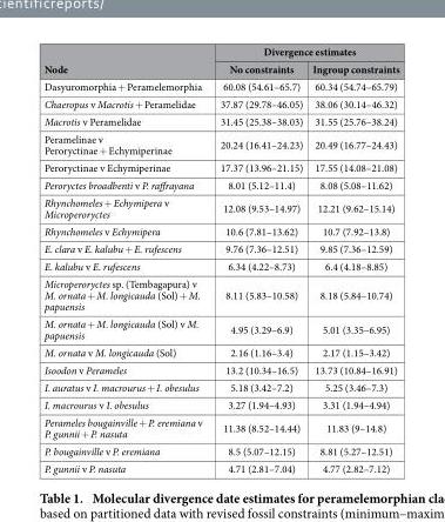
<table><thead><tr><td rowspan="2">Node</td><td colspan="2">Divergence estimates</td></tr><tr><td>No constraints</td><td>Ingroup constraints</td></tr></thead><tbody><tr><td>Dasyuromorphia + Peramelemorphia</td><td>60.08 (54.61–65.7)</td><td>60.34 (54.74–65.79)</td></tr><tr><td>Chaeropus v Macrotis + Peramelidae</td><td>37.87 (29.78–46.05)</td><td>38.06 (30.14–46.32)</td></tr><tr><td>Macrotis v Peramelidae</td><td>31.45 (25.38–38.03)</td><td>31.55 (25.76–38.24)</td></tr><tr><td>Peramelinae v Peroryctinae + Echymiperinae</td><td>20.24 (16.41–24.23)</td><td>20.49 (16.77–24.43)</td></tr><tr><td>Peroryctinae v Echymiperinae</td><td>17.37 (13.96–21.15)</td><td>17.55 (14.08–21.08)</td></tr><tr><td>Peroryctes broadbenti v P. raffrayana</td><td>8.01 (5.12–11.4)</td><td>8.08 (5.08–11.62)</td></tr><tr><td>Rhynchomeles + Echymipera v Microperoryctes</td><td>12.08 (9.53–14.97)</td><td>12.21 (9.62–15.14)</td></tr><tr><td>Rhynchomeles v Echymipera</td><td>10.6 (7.81–13.62)</td><td>10.7 (7.92–13.8)</td></tr><tr><td>E. clara v E. kalubu + E. rufescens</td><td>9.76 (7.36–12.51)</td><td>9.85 (7.36–12.59)</td></tr><tr><td>E. kalubu v E. rufescens</td><td>6.34 (4.22–8.73)</td><td>6.4 (4.18–8.85)</td></tr><tr><td>Microperoryctes sp. (Tembagapura) v M. ornata + M. longicauda (Sol) + M. papuensis</td><td>8.11 (5.83–10.58)</td><td>8.18 (5.84–10.74)</td></tr><tr><td>M. ornata + M. longicauda (Sol) v M. papuensis</td><td>4.95 (3.29–6.9)</td><td>5.01 (3.35–6.95)</td></tr><tr><td>M. ornata v M. longicauda (Sol)</td><td>2.16 (1.16–3.4)</td><td>2.17 (1.15–3.42)</td></tr><tr><td>Isoodon v Perameles</td><td>13.2 (10.34–16.5)</td><td>13.73 (10.84–16.91)</td></tr><tr><td>I. auratus v I. macrourus + I. obesulus</td><td>5.18 (3.42–7.2)</td><td>5.25 (3.46–7.3)</td></tr><tr><td>I. macrourus v I. obesulus</td><td>3.27 (1.94–4.93)</td><td>3.31 (1.94–4.94)</td></tr><tr><td>Perameles bougainville + P. eremiana v P. gunnii + P. nasuta</td><td>11.38 (8.52–14.44)</td><td>11.83 (9–14.8)</td></tr><tr><td>P. bougainville v P. eremiana</td><td>8.5 (5.07–12.15)</td><td>8.81 (5.27–12.51)</td></tr><tr><td>P. gunnii v P. nasuta</td><td>4.71 (2.81–7.04)</td><td>4.77 (2.82–7.12)</td></tr></tbody></table>